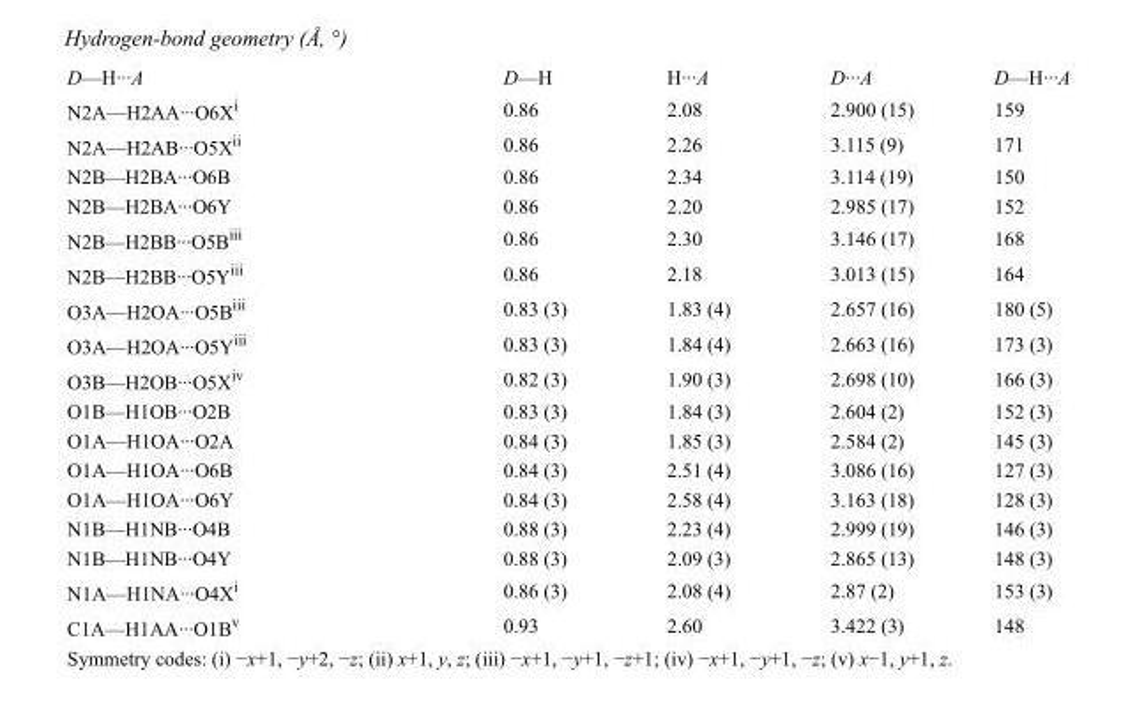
<table><tbody><tr><td>D—H···A</td><td>D—H</td><td>H···A</td><td>D···A</td><td>D—H···A</td></tr><tr><td>N2A—H2AA···O6X<sup>i</sup></td><td>0.86</td><td>2.08</td><td>2.900 (15)</td><td>159</td></tr><tr><td>N2A—H2AB···O5X<sup>ii</sup></td><td>0.86</td><td>2.26</td><td>3.115 (9)</td><td>171</td></tr><tr><td>N2B—H2BA···O6B</td><td>0.86</td><td>2.34</td><td>3.114 (19)</td><td>150</td></tr><tr><td>N2B—H2BA···O6Y</td><td>0.86</td><td>2.20</td><td>2.985 (17)</td><td>152</td></tr><tr><td>N2B—H2BB···O5B<sup>iii</sup></td><td>0.86</td><td>2.30</td><td>3.146 (17)</td><td>168</td></tr><tr><td>N2B—H2BB···O5Y<sup>iii</sup></td><td>0.86</td><td>2.18</td><td>3.013 (15)</td><td>164</td></tr><tr><td>O3A—H2OA···O5B<sup>iii</sup></td><td>0.83 (3)</td><td>1.83 (4)</td><td>2.657 (16)</td><td>180 (5)</td></tr><tr><td>O3A—H2OA···O5Y<sup>iii</sup></td><td>0.83 (3)</td><td>1.84 (4)</td><td>2.663 (16)</td><td>173 (3)</td></tr><tr><td>O3B—H2OB···O5X<sup>iv</sup></td><td>0.82 (3)</td><td>1.90 (3)</td><td>2.698 (10)</td><td>166 (3)</td></tr><tr><td>O1B—H1OB···O2B</td><td>0.83 (3)</td><td>1.84 (3)</td><td>2.604 (2)</td><td>152 (3)</td></tr><tr><td>O1A—H1OA···O2A</td><td>0.84 (3)</td><td>1.85 (3)</td><td>2.584 (2)</td><td>145 (3)</td></tr><tr><td>O1A—H1OA···O6B</td><td>0.84 (3)</td><td>2.51 (4)</td><td>3.086 (16)</td><td>127 (3)</td></tr><tr><td>O1A—H1OA···O6Y</td><td>0.84 (3)</td><td>2.58 (4)</td><td>3.163 (18)</td><td>128 (3)</td></tr><tr><td>N1B—H1NB···O4B</td><td>0.88 (3)</td><td>2.23 (4)</td><td>2.999 (19)</td><td>146 (3)</td></tr><tr><td>N1B—H1NB···O4Y</td><td>0.88 (3)</td><td>2.09 (3)</td><td>2.865 (13)</td><td>148 (3)</td></tr><tr><td>N1A—H1NA···O4X<sup>i</sup></td><td>0.86 (3)</td><td>2.08 (4)</td><td>2.87 (2)</td><td>153 (3)</td></tr><tr><td>C1A—H1AA···O1B<sup>v</sup></td><td>0.93</td><td>2.60</td><td>3.422 (3)</td><td>148</td></tr></tbody></table>